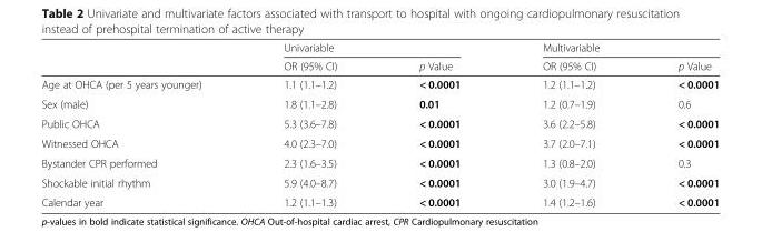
<table><thead><tr><td rowspan="2"></td><td colspan="2">Univariable</td><td colspan="2">Multivariable</td></tr><tr><td>OR (95% CI)</td><td>p Value</td><td>OR (95% CI)</td><td>p Value</td></tr></thead><tbody><tr><td>Age at OHCA (per 5 years younger)</td><td>1.1 (1.1–1.2)</td><td>&lt; 0.0001</td><td>1.2 (1.1–1.2)</td><td>&lt; 0.0001</td></tr><tr><td>Sex (male)</td><td>1.8 (1.1–2.8)</td><td>0.01</td><td>1.2 (0.7–1.9)</td><td>0.6</td></tr><tr><td>Public OHCA</td><td>5.3 (3.6–7.8)</td><td>&lt; 0.0001</td><td>3.6 (2.2–5.8)</td><td>&lt; 0.0001</td></tr><tr><td>Witnessed OHCA</td><td>4.0 (2.3–7.0)</td><td>&lt; 0.0001</td><td>3.7 (2.0–7.1)</td><td>&lt; 0.0001</td></tr><tr><td>Bystander CPR performed</td><td>2.3 (1.6–3.5)</td><td>&lt; 0.0001</td><td>1.3 (0.8–2.0)</td><td>0.3</td></tr><tr><td>Shockable initial rhythm</td><td>5.9 (4.0–8.7)</td><td>&lt; 0.0001</td><td>3.0 (1.9–4.7)</td><td>&lt; 0.0001</td></tr><tr><td>Calendar year</td><td>1.2 (1.1–1.3)</td><td>&lt; 0.0001</td><td>1.4 (1.2–1.6)</td><td>&lt; 0.0001</td></tr></tbody></table>